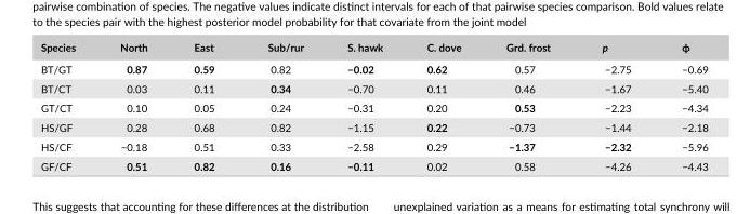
<table><thead><tr><td>Species</td><td>North</td><td>East</td><td>Sub/rur</td><td>S. hawk</td><td>C. dove</td><td>Grd. frost</td><td>p</td><td>ϕ</td></tr></thead><tbody><tr><td>BT/GT</td><td>0.87</td><td>0.59</td><td>0.82</td><td>−0.02</td><td>0.62</td><td>0.57</td><td>−2.75</td><td>−0.69</td></tr><tr><td>BT/CT</td><td>0.03</td><td>0.11</td><td>0.34</td><td>−0.70</td><td>0.11</td><td>0.46</td><td>−1.67</td><td>−5.40</td></tr><tr><td>GT/CT</td><td>0.10</td><td>0.05</td><td>0.24</td><td>−0.31</td><td>0.20</td><td>0.53</td><td>−2.23</td><td>−4.34</td></tr><tr><td>HS/GF</td><td>0.28</td><td>0.68</td><td>0.82</td><td>−1.15</td><td>0.22</td><td>−0.73</td><td>−1.44</td><td>−2.18</td></tr><tr><td>HS/CF</td><td>−0.18</td><td>0.51</td><td>0.33</td><td>−2.58</td><td>0.29</td><td>−1.37</td><td>−2.32</td><td>−5.96</td></tr><tr><td>GF/CF</td><td>0.51</td><td>0.82</td><td>0.16</td><td>−0.11</td><td>0.02</td><td>0.58</td><td>−4.26</td><td>−4.43</td></tr></tbody></table>